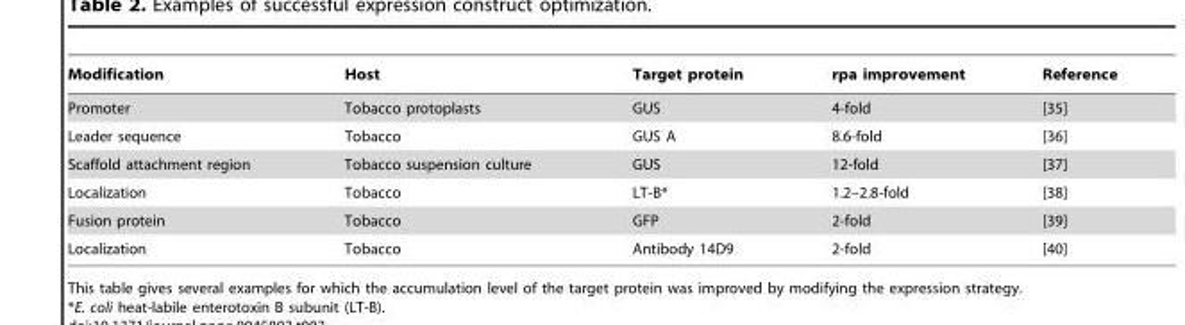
<table><thead><tr><td>Modification</td><td>Host</td><td>Target protein</td><td>rpa improvement</td><td>Reference</td></tr></thead><tbody><tr><td>Promoter</td><td>Tobacco protoplasts</td><td>GUS</td><td>4-fold</td><td>[35]</td></tr><tr><td>Leader sequence</td><td>Tobacco</td><td>GUS A</td><td>8.6-fold</td><td>[36]</td></tr><tr><td>Scaffold attachment region</td><td>Tobacco suspension culture</td><td>GUS</td><td>12-fold</td><td>[37]</td></tr><tr><td>Localization</td><td>Tobacco</td><td>LT-B*</td><td>1.2–2.8-fold</td><td>[38]</td></tr><tr><td>Fusion protein</td><td>Tobacco</td><td>GFP</td><td>2-fold</td><td>[39]</td></tr><tr><td>Localization</td><td>Tobacco</td><td>Antibody 14D9</td><td>2-fold</td><td>[40]</td></tr></tbody></table>